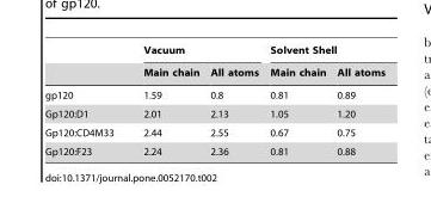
<table><thead><tr><td rowspan="2"></td><td colspan="2">Vacuum</td><td colspan="2">Solvent Shell</td></tr><tr><td>Main chain</td><td>All atoms</td><td>Main chain</td><td>All atoms</td></tr></thead><tbody><tr><td>gp120</td><td>1.59</td><td>0.8</td><td>0.81</td><td>0.89</td></tr><tr><td>Gp120:D1</td><td>2.01</td><td>2.13</td><td>1.05</td><td>1.20</td></tr><tr><td>Gp120:CD4M33</td><td>2.44</td><td>2.55</td><td>0.67</td><td>0.75</td></tr><tr><td>Gp120:F23</td><td>2.24</td><td>2.36</td><td>0.81</td><td>0.88</td></tr></tbody></table>